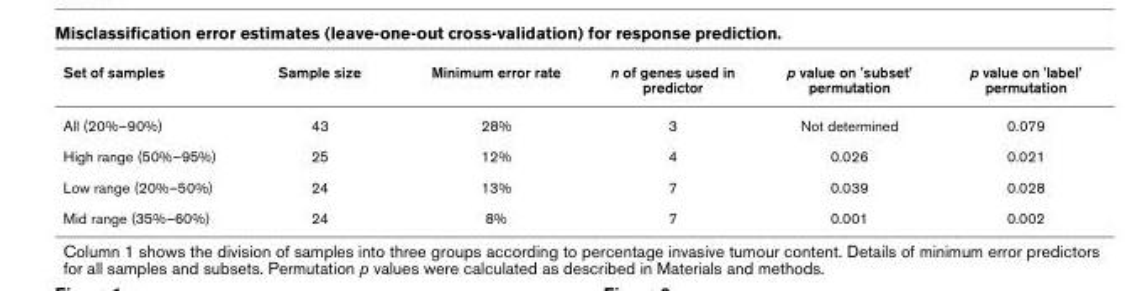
<table><thead><tr><td>Set of samples</td><td>Sample size</td><td>Minimum error rate</td><td>n of genes used in predictor</td><td>p value on &#x27;subset&#x27; permutation</td><td>p value on &#x27;label&#x27; permutation</td></tr></thead><tbody><tr><td>All (20%–90%)</td><td>43</td><td>28%</td><td>3</td><td>Not determined</td><td>0.079</td></tr><tr><td>High range (50%–95%)</td><td>25</td><td>12%</td><td>4</td><td>0.026</td><td>0.021</td></tr><tr><td>Low range (20%–50%)</td><td>24</td><td>13%</td><td>7</td><td>0.039</td><td>0.028</td></tr><tr><td>Mid range (35%–60%)</td><td>24</td><td>8%</td><td>7</td><td>0.001</td><td>0.002</td></tr></tbody></table>